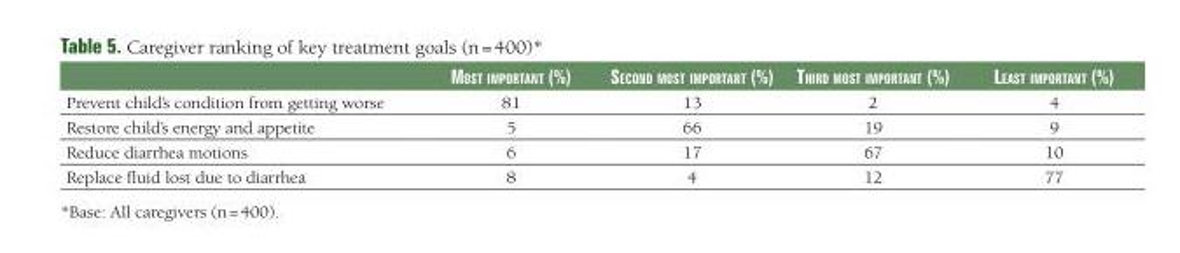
<table><thead><tr><td></td><td>moSt imPortant (%)</td><td>Second moSt imPortant (%)</td><td>third moSt imPortant (%)</td><td>leaSt imPortant (%)</td></tr></thead><tbody><tr><td>Prevent child’s condition from getting worse</td><td>81</td><td>13</td><td>2</td><td>4</td></tr><tr><td>Restore child’s energy and appetite</td><td>5</td><td>66</td><td>19</td><td>9</td></tr><tr><td>Reduce diarrhea motions</td><td>6</td><td>17</td><td>67</td><td>10</td></tr><tr><td>Replace fluid lost due to diarrhea</td><td>8</td><td>4</td><td>12</td><td>77</td></tr></tbody></table>